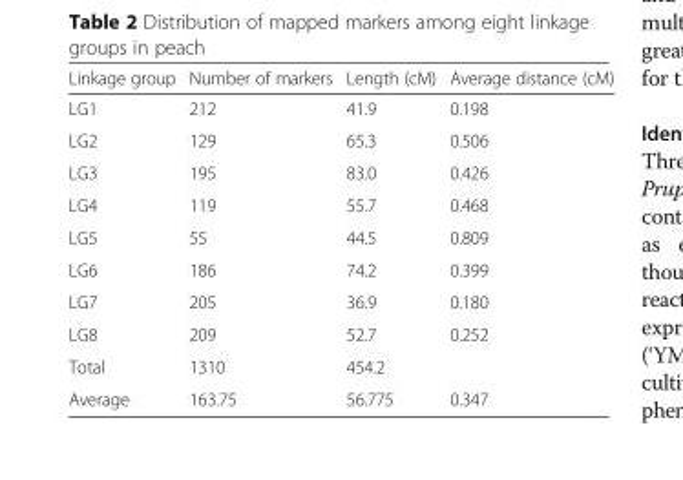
<table><thead><tr><td>Linkage group</td><td>Number of markers</td><td>Length (cM)</td><td>Average distance (cM)</td></tr></thead><tbody><tr><td>LG1</td><td>212</td><td>41.9</td><td>0.198</td></tr><tr><td>LG2</td><td>129</td><td>65.3</td><td>0.506</td></tr><tr><td>LG3</td><td>195</td><td>83.0</td><td>0.426</td></tr><tr><td>LG4</td><td>119</td><td>55.7</td><td>0.468</td></tr><tr><td>LG5</td><td>55</td><td>44.5</td><td>0.809</td></tr><tr><td>LG6</td><td>186</td><td>74.2</td><td>0.399</td></tr><tr><td>LG7</td><td>205</td><td>36.9</td><td>0.180</td></tr><tr><td>LG8</td><td>209</td><td>52.7</td><td>0.252</td></tr><tr><td>Total</td><td>1310</td><td>454.2</td><td></td></tr><tr><td>Average</td><td>163.75</td><td>56.775</td><td>0.347</td></tr></tbody></table>